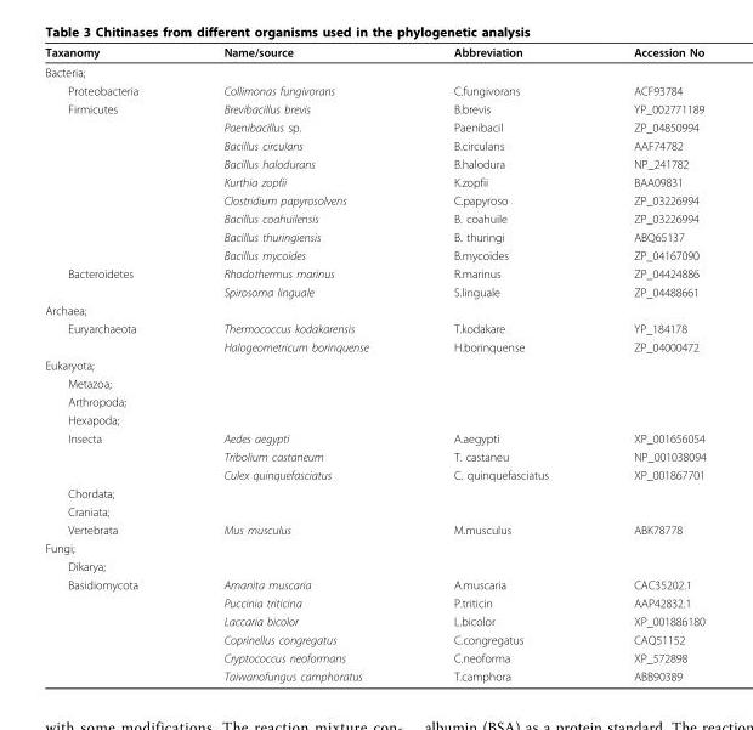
<table><thead><tr><td>Taxanomy</td><td>Name/source</td><td>Abbreviation</td><td>Accession No</td></tr></thead><tbody><tr><td colspan="4">Bacteria;</td></tr><tr><td>Proteobacteria</td><td>Collimonas fungivorans</td><td>C.fungivorans</td><td>ACF93784</td></tr><tr><td rowspan="9">Firmicutes</td><td>Brevibacillus brevis</td><td>B.brevis</td><td>YP_002771189</td></tr><tr><td>Paenibacillus sp.</td><td>Paenibacil</td><td>ZP_04850994</td></tr><tr><td>Bacillus circulans</td><td>B.circulans</td><td>AAF74782</td></tr><tr><td>Bacillus halodurans</td><td>B.halodura</td><td>NP_241782</td></tr><tr><td>Kurthia zopfii</td><td>K.zopfii</td><td>BAA09831</td></tr><tr><td>Clostridium papyrosolvens</td><td>C.papyroso</td><td>ZP_03226994</td></tr><tr><td>Bacillus coahuilensis</td><td>B. coahuile</td><td>ZP_03226994</td></tr><tr><td>Bacillus thuringiensis</td><td>B. thuringi</td><td>ABQ65137</td></tr><tr><td>Bacillus mycoides</td><td>B.mycoides</td><td>ZP_04167090</td></tr><tr><td rowspan="2">Bacteroidetes</td><td>Rhodothermus marinus</td><td>R.marinus</td><td>ZP_04424886</td></tr><tr><td>Spirosoma linguale</td><td>S.linguale</td><td>ZP_04488661</td></tr><tr><td colspan="4">Archaea;</td></tr><tr><td rowspan="2">Euryarchaeota</td><td>Thermococcus kodakarensis</td><td>T.kodakare</td><td>YP_184178</td></tr><tr><td>Halogeometricum borinquense</td><td>H.borinquense</td><td>ZP_04000472</td></tr><tr><td colspan="4">Eukaryota;</td></tr><tr><td colspan="4">Metazoa;</td></tr><tr><td colspan="4">Arthropoda;</td></tr><tr><td colspan="4">Hexapoda;</td></tr><tr><td rowspan="3">Insecta</td><td>Aedes aegypti</td><td>A.aegypti</td><td>XP_001656054</td></tr><tr><td>Tribolium castaneum</td><td>T. castaneu</td><td>NP_001038094</td></tr><tr><td>Culex quinquefasciatus</td><td>C. quinquefasciatus</td><td>XP_001867701</td></tr><tr><td colspan="4">Chordata;</td></tr><tr><td colspan="4">Craniata;</td></tr><tr><td>Vertebrata</td><td>Mus musculus</td><td>M.musculus</td><td>ABK78778</td></tr><tr><td colspan="4">Fungi;</td></tr><tr><td colspan="4">Dikarya;</td></tr><tr><td rowspan="6">Basidiomycota</td><td>Amanita muscaria</td><td>A.muscaria</td><td>CAC35202.1</td></tr><tr><td>Puccinia triticina</td><td>P.triticin</td><td>AAP42832.1</td></tr><tr><td>Laccaria bicolor</td><td>L.bicolor</td><td>XP_001886180</td></tr><tr><td>Coprinellus congregatus</td><td>C.congregatus</td><td>CAQ51152</td></tr><tr><td>Cryptococcus neoformans</td><td>C.neoforma</td><td>XP_572898</td></tr><tr><td>Taiwanofungus camphoratus</td><td>T.camphora</td><td>ABB90389</td></tr></tbody></table>